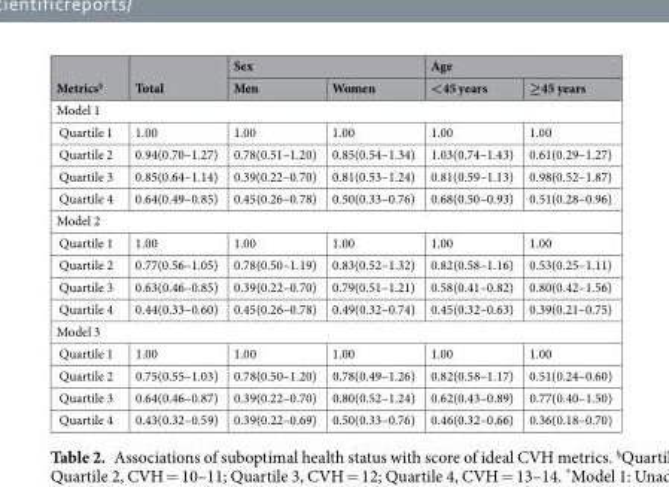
<table><thead><tr><td rowspan="2">Metrics<sup>§</sup></td><td rowspan="2">Total</td><td colspan="2">Sex</td><td colspan="2">Age</td></tr><tr><td>Men</td><td>Women</td><td>&lt;45 years</td><td>≥45 years</td></tr></thead><tbody><tr><td colspan="6">Model 1</td></tr><tr><td>Quartile 1</td><td>1.00</td><td>1.00</td><td>1.00</td><td>1.00</td><td>1.00</td></tr><tr><td>Quartile 2</td><td>0.94(0.70–1.27)</td><td>0.78(0.51–1.20)</td><td>0.85(0.54–1.34)</td><td>1.03(0.74–1.43)</td><td>0.61(0.29–1.27)</td></tr><tr><td>Quartile 3</td><td>0.85(0.64–1.14)</td><td>0.39(0.22–0.70)</td><td>0.81(0.53–1.24)</td><td>0.81(0.59–1.13)</td><td>0.98(0.52–1.87)</td></tr><tr><td>Quartile 4</td><td>0.64(0.49–0.85)</td><td>0.45(0.26–0.78)</td><td>0.50(0.33–0.76)</td><td>0.68(0.50–0.93)</td><td>0.51(0.28–0.96)</td></tr><tr><td colspan="6">Model 2</td></tr><tr><td>Quartile 1</td><td>1.00</td><td>1.00</td><td>1.00</td><td>1.00</td><td>1.00</td></tr><tr><td>Quartile 2</td><td>0.77(0.56–1.05)</td><td>0.78(0.50–1.19)</td><td>0.83(0.52–1.32)</td><td>0.82(0.58–1.16)</td><td>0.53(0.25–1.11)</td></tr><tr><td>Quartile 3</td><td>0.63(0.46–0.85)</td><td>0.39(0.22–0.70)</td><td>0.79(0.51–1.21)</td><td>0.58(0.41–0.82)</td><td>0.80(0.42–1.56)</td></tr><tr><td>Quartile 4</td><td>0.44(0.33–0.60)</td><td>0.45(0.26–0.78)</td><td>0.49(0.32–0.74)</td><td>0.45(0.32–0.63)</td><td>0.39(0.21–0.75)</td></tr><tr><td colspan="6">Model 3</td></tr><tr><td>Quartile 1</td><td>1.00</td><td>1.00</td><td>1.00</td><td>1.00</td><td>1.00</td></tr><tr><td>Quartile 2</td><td>0.75(0.55–1.03)</td><td>0.78(0.50–1.20)</td><td>0.78(0.49–1.26)</td><td>0.82(0.58–1.17)</td><td>0.51(0.24–0.60)</td></tr><tr><td>Quartile 3</td><td>0.64(0.46–0.87)</td><td>0.39(0.22–0.70)</td><td>0.80(0.52–1.24)</td><td>0.62(0.43–0.89)</td><td>0.77(0.40–1.50)</td></tr><tr><td>Quartile 4</td><td>0.43(0.32–0.59)</td><td>0.39(0.22–0.69)</td><td>0.50(0.33–0.76)</td><td>0.46(0.32–0.66)</td><td>0.36(0.18–0.70)</td></tr></tbody></table>